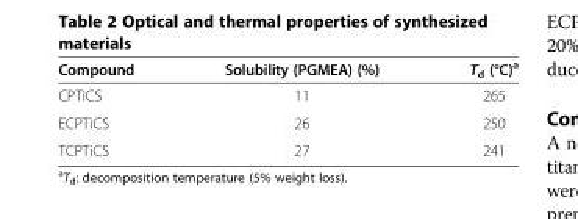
<table><thead><tr><td>Compound</td><td>Solubility (PGMEA) (%)</td><td>T<sub>d</sub> (°C)<sup>a</sup></td></tr></thead><tbody><tr><td>CPTiCS</td><td>11</td><td>265</td></tr><tr><td>ECPTiCS</td><td>26</td><td>250</td></tr><tr><td>TCPTiCS</td><td>27</td><td>241</td></tr></tbody></table>